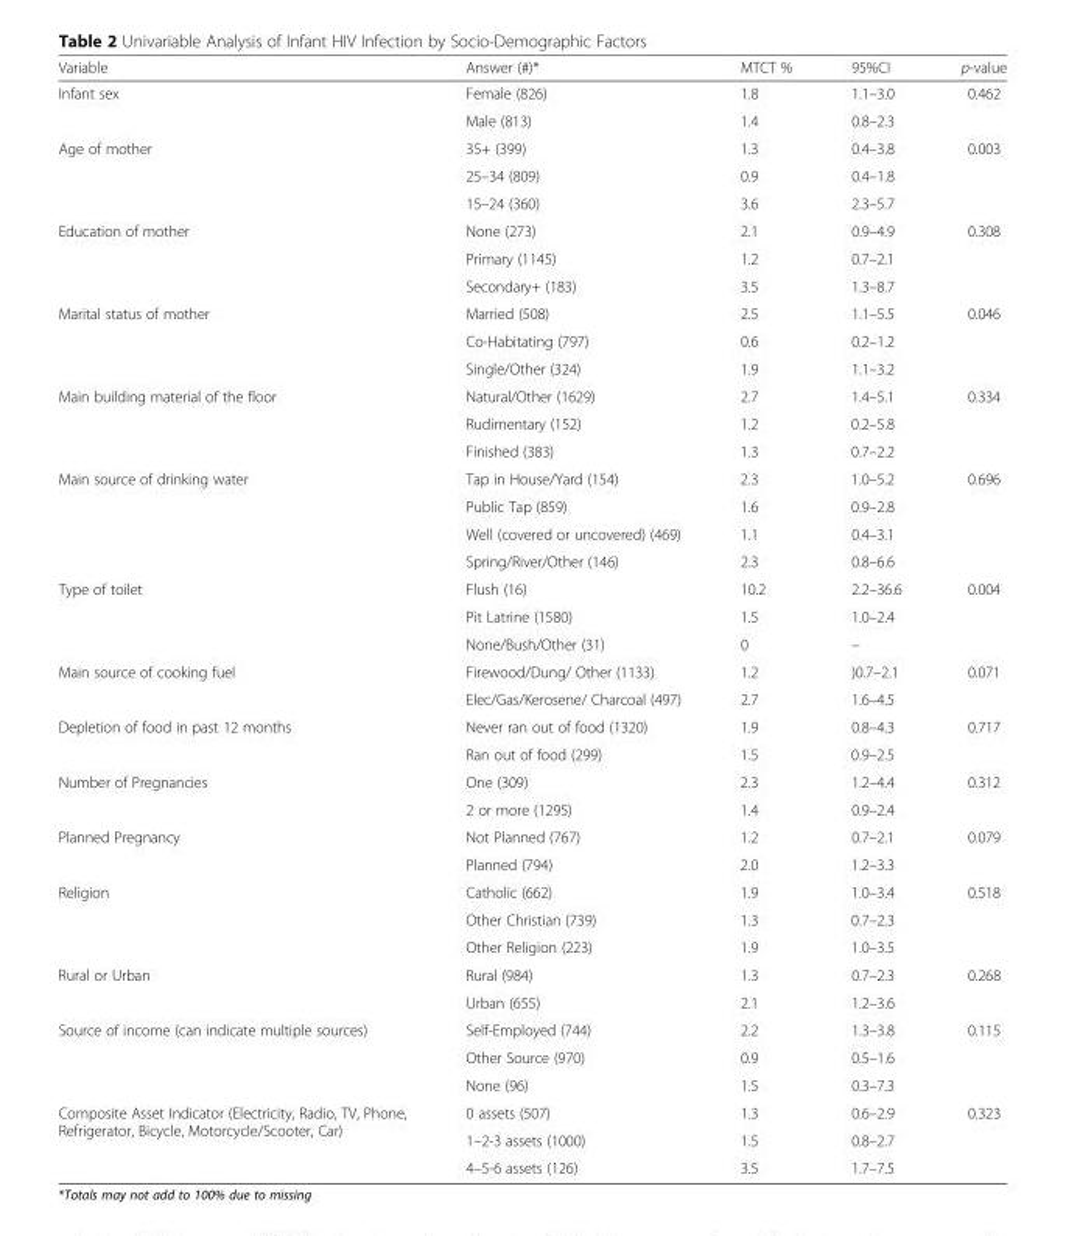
<table><thead><tr><td>Variable</td><td>Answer (#)*</td><td>MTCT %</td><td>95%CI</td><td>p-value</td></tr></thead><tbody><tr><td rowspan="2">Infant sex</td><td>Female (826)</td><td>1.8</td><td>1.1–3.0</td><td rowspan="2">0.462</td></tr><tr><td>Male (813)</td><td>1.4</td><td>0.8–2.3</td></tr><tr><td rowspan="3">Age of mother</td><td>35+ (399)</td><td>1.3</td><td>0.4–3.8</td><td rowspan="3">0.003</td></tr><tr><td>25–34 (809)</td><td>0.9</td><td>0.4–1.8</td></tr><tr><td>15–24 (360)</td><td>3.6</td><td>2.3–5.7</td></tr><tr><td rowspan="3">Education of mother</td><td>None (273)</td><td>2.1</td><td>0.9–4.9</td><td rowspan="3">0.308</td></tr><tr><td>Primary (1145)</td><td>1.2</td><td>0.7–2.1</td></tr><tr><td>Secondary+ (183)</td><td>3.5</td><td>1.3–8.7</td></tr><tr><td rowspan="3">Marital status of mother</td><td>Married (508)</td><td>2.5</td><td>1.1–5.5</td><td rowspan="3">0.046</td></tr><tr><td>Co-Habitating (797)</td><td>0.6</td><td>0.2–1.2</td></tr><tr><td>Single/Other (324)</td><td>1.9</td><td>1.1–3.2</td></tr><tr><td rowspan="3">Main building material of the floor</td><td>Natural/Other (1629)</td><td>2.7</td><td>1.4–5.1</td><td rowspan="3">0.334</td></tr><tr><td>Rudimentary (152)</td><td>1.2</td><td>0.2–5.8</td></tr><tr><td>Finished (383)</td><td>1.3</td><td>0.7–2.2</td></tr><tr><td rowspan="4">Main source of drinking water</td><td>Tap in House/Yard (154)</td><td>2.3</td><td>1.0–5.2</td><td rowspan="4">0.696</td></tr><tr><td>Public Tap (859)</td><td>1.6</td><td>0.9–2.8</td></tr><tr><td>Well (covered or uncovered) (469)</td><td>1.1</td><td>0.4–3.1</td></tr><tr><td>Spring/River/Other (146)</td><td>2.3</td><td>0.8–6.6</td></tr><tr><td rowspan="3">Type of toilet</td><td>Flush (16)</td><td>10.2</td><td>2.2–36.6</td><td rowspan="3">0.004</td></tr><tr><td>Pit Latrine (1580)</td><td>1.5</td><td>1.0–2.4</td></tr><tr><td>None/Bush/Other (31)</td><td>0</td><td>–</td></tr><tr><td rowspan="2">Main source of cooking fuel</td><td>Firewood/Dung/ Other (1133)</td><td>1.2</td><td>)0.7–2.1</td><td rowspan="2">0.071</td></tr><tr><td>Elec/Gas/Kerosene/ Charcoal (497)</td><td>2.7</td><td>1.6–4.5</td></tr><tr><td rowspan="2">Depletion of food in past 12 months</td><td>Never ran out of food (1320)</td><td>1.9</td><td>0.8–4.3</td><td rowspan="2">0.717</td></tr><tr><td>Ran out of food (299)</td><td>1.5</td><td>0.9–2.5</td></tr><tr><td rowspan="2">Number of Pregnancies</td><td>One (309)</td><td>2.3</td><td>1.2–4.4</td><td rowspan="2">0.312</td></tr><tr><td>2 or more (1295)</td><td>1.4</td><td>0.9–2.4</td></tr><tr><td rowspan="2">Planned Pregnancy</td><td>Not Planned (767)</td><td>1.2</td><td>0.7–2.1</td><td rowspan="2">0.079</td></tr><tr><td>Planned (794)</td><td>2.0</td><td>1.2–3.3</td></tr><tr><td rowspan="3">Religion</td><td>Catholic (662)</td><td>1.9</td><td>1.0–3.4</td><td rowspan="3">0.518</td></tr><tr><td>Other Christian (739)</td><td>1.3</td><td>0.7–2.3</td></tr><tr><td>Other Religion (223)</td><td>1.9</td><td>1.0–3.5</td></tr><tr><td rowspan="2">Rural or Urban</td><td>Rural (984)</td><td>1.3</td><td>0.7–2.3</td><td rowspan="2">0.268</td></tr><tr><td>Urban (655)</td><td>2.1</td><td>1.2–3.6</td></tr><tr><td rowspan="3">Source of income (can indicate multiple sources)</td><td>Self-Employed (744)</td><td>2.2</td><td>1.3–3.8</td><td rowspan="3">0.115</td></tr><tr><td>Other Source (970)</td><td>0.9</td><td>0.5–1.6</td></tr><tr><td>None (96)</td><td>1.5</td><td>0.3–7.3</td></tr><tr><td rowspan="3">Composite Asset Indicator (Electricity, Radio, TV, Phone, Refrigerator, Bicycle, Motorcycle/Scooter, Car)</td><td>0 assets (507)</td><td>1.3</td><td>0.6–2.9</td><td rowspan="3">0.323</td></tr><tr><td>1–2-3 assets (1000)</td><td>1.5</td><td>0.8–2.7</td></tr><tr><td>4–5-6 assets (126)</td><td>3.5</td><td>1.7–7.5</td></tr></tbody></table>